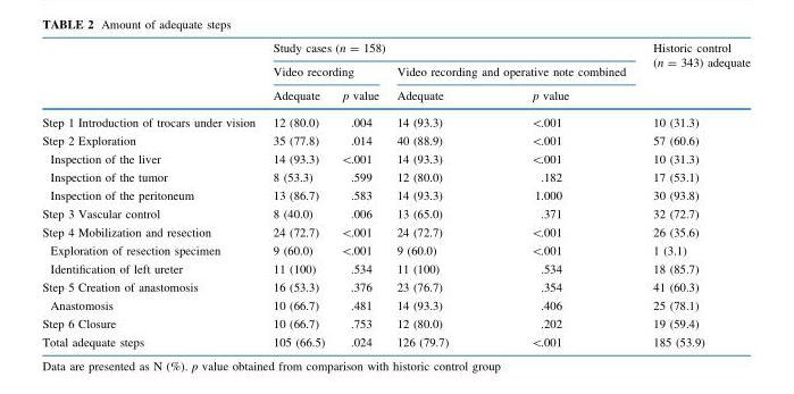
<table><thead><tr><td rowspan="3"></td><td colspan="4">Study cases (n = 158)</td><td rowspan="3">Historic control (n = 343) adequate</td></tr><tr><td colspan="2">Video recording</td><td colspan="2">Video recording and operative note combined</td></tr><tr><td>Adequate</td><td>p value</td><td>Adequate</td><td>p value</td></tr></thead><tbody><tr><td>Step 1 Introduction of trocars under vision</td><td>12 (80.0)</td><td>.004</td><td>14 (93.3)</td><td>&lt;.001</td><td>10 (31.3)</td></tr><tr><td>Step 2 Exploration</td><td>35 (77.8)</td><td>.014</td><td>40 (88.9)</td><td>&lt;.001</td><td>57 (60.6)</td></tr><tr><td>Inspection of the liver</td><td>14 (93.3)</td><td>&lt;.001</td><td>14 (93.3)</td><td>&lt;.001</td><td>10 (31.3)</td></tr><tr><td>Inspection of the tumor</td><td>8 (53.3)</td><td>.599</td><td>12 (80.0)</td><td>.182</td><td>17 (53.1)</td></tr><tr><td>Inspection of the peritoneum</td><td>13 (86.7)</td><td>.583</td><td>14 (93.3)</td><td>1.000</td><td>30 (93.8)</td></tr><tr><td>Step 3 Vascular control</td><td>8 (40.0)</td><td>.006</td><td>13 (65.0)</td><td>.371</td><td>32 (72.7)</td></tr><tr><td>Step 4 Mobilization and resection</td><td>24 (72.7)</td><td>&lt;.001</td><td>24 (72.7)</td><td>&lt;.001</td><td>26 (35.6)</td></tr><tr><td>Exploration of resection specimen</td><td>9 (60.0)</td><td>&lt;.001</td><td>9 (60.0)</td><td>&lt;.001</td><td>1 (3.1)</td></tr><tr><td>Identification of left ureter</td><td>11 (100)</td><td>.534</td><td>11 (100)</td><td>.534</td><td>18 (85.7)</td></tr><tr><td>Step 5 Creation of anastomosis</td><td>16 (53.3)</td><td>.376</td><td>23 (76.7)</td><td>.354</td><td>41 (60.3)</td></tr><tr><td>Anastomosis</td><td>10 (66.7)</td><td>.481</td><td>14 (93.3)</td><td>.406</td><td>25 (78.1)</td></tr><tr><td>Step 6 Closure</td><td>10 (66.7)</td><td>.753</td><td>12 (80.0)</td><td>.202</td><td>19 (59.4)</td></tr><tr><td>Total adequate steps</td><td>105 (66.5)</td><td>.024</td><td>126 (79.7)</td><td>&lt;.001</td><td>185 (53.9)</td></tr></tbody></table>